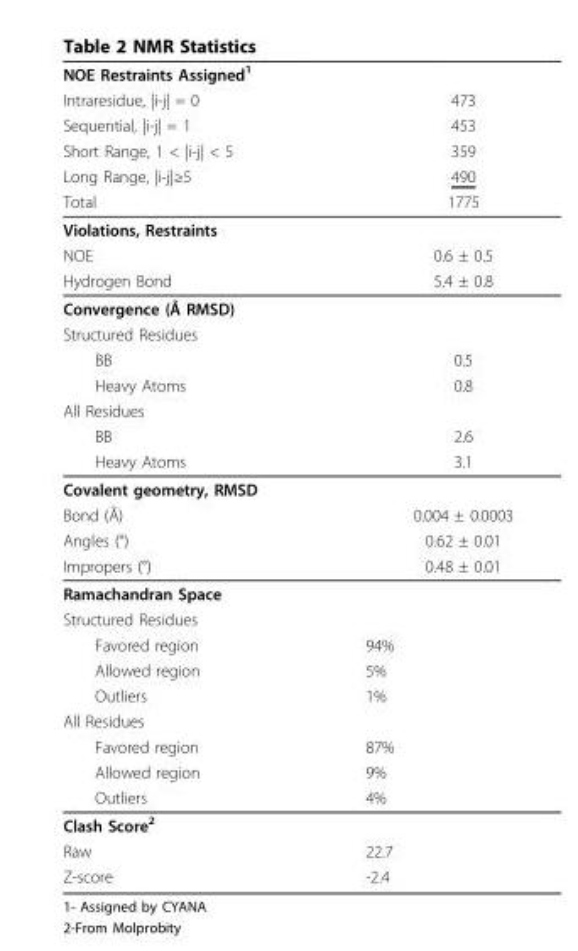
<table><thead><tr><td rowspan="6">NOE Restraints Assigned1 Intraresidue, |i-j| = 0 Sequential, |i-j| = 1 Short Range, 1 &lt; |i-j| &lt; 5 Long Range, |i-j|≥5 Total</td><td rowspan="6">473 453 359 490 1775</td></tr><tr></tr><tr></tr><tr></tr><tr></tr><tr></tr></thead><tbody><tr><td colspan="2">Violations, Restraints</td></tr><tr><td>NOE</td><td>0.6 ± 0.5</td></tr><tr><td>Hydrogen Bond</td><td>5.4 ± 0.8</td></tr><tr><td colspan="2">Convergence (Å RMSD)</td></tr><tr><td colspan="2">Structured Residues</td></tr><tr><td>BB</td><td>0.5</td></tr><tr><td>Heavy Atoms</td><td>0.8</td></tr><tr><td colspan="2">All Residues</td></tr><tr><td>BB</td><td>2.6</td></tr><tr><td>Heavy Atoms</td><td>3.1</td></tr><tr><td colspan="2">Covalent geometry, RMSD</td></tr><tr><td>Bond (Å)</td><td>0.004 ± 0.0003</td></tr><tr><td>Angles (°)</td><td>0.62 ± 0.01</td></tr><tr><td>Impropers (°)</td><td>0.48 ± 0.01</td></tr><tr><td colspan="2">Ramachandran Space</td></tr><tr><td colspan="2">Structured Residues</td></tr><tr><td>Favored region</td><td>94%</td></tr><tr><td>Allowed region</td><td>5%</td></tr><tr><td>Outliers</td><td>1%</td></tr><tr><td colspan="2">All Residues</td></tr><tr><td>Favored region</td><td>87%</td></tr><tr><td>Allowed region</td><td>9%</td></tr><tr><td>Outliers</td><td>4%</td></tr><tr><td colspan="2">Clash Score<sup>2</sup></td></tr><tr><td>Raw</td><td>22.7</td></tr><tr><td>Z-score</td><td>-2.4</td></tr></tbody></table>